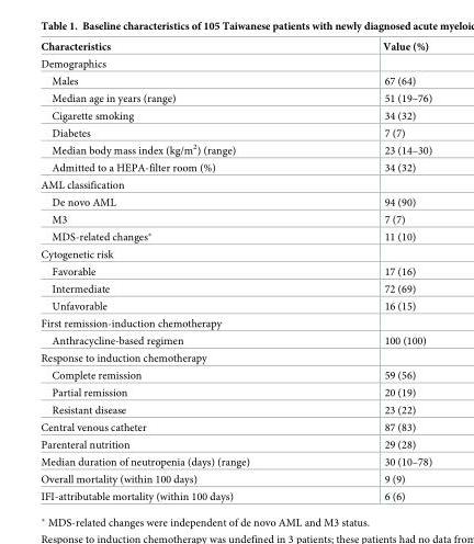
<table><thead><tr><td>Characteristics</td><td>Value (%)</td></tr></thead><tbody><tr><td colspan="2">Demographics</td></tr><tr><td>Males</td><td>67 (64)</td></tr><tr><td>Median age in years (range)</td><td>51 (19–76)</td></tr><tr><td>Cigarette smoking</td><td>34 (32)</td></tr><tr><td>Diabetes</td><td>7 (7)</td></tr><tr><td>Median body mass index (kg/m<sup>2</sup>) (range)</td><td>23 (14–30)</td></tr><tr><td>Admitted to a HEPA-filter room (%)</td><td>34 (32)</td></tr><tr><td colspan="2">AML classification</td></tr><tr><td>De novo AML</td><td>94 (90)</td></tr><tr><td>M3</td><td>7 (7)</td></tr><tr><td>MDS-related changes*</td><td>11 (10)</td></tr><tr><td colspan="2">Cytogenetic risk</td></tr><tr><td>Favorable</td><td>17 (16)</td></tr><tr><td>Intermediate</td><td>72 (69)</td></tr><tr><td>Unfavorable</td><td>16 (15)</td></tr><tr><td colspan="2">First remission-induction chemotherapy</td></tr><tr><td>Anthracycline-based regimen</td><td>100 (100)</td></tr><tr><td colspan="2">Response to induction chemotherapy</td></tr><tr><td>Complete remission</td><td>59 (56)</td></tr><tr><td>Partial remission</td><td>20 (19)</td></tr><tr><td>Resistant disease</td><td>23 (22)</td></tr><tr><td>Central venous catheter</td><td>87 (83)</td></tr><tr><td>Parenteral nutrition</td><td>29 (28)</td></tr><tr><td>Median duration of neutropenia (days) (range)</td><td>30 (10–78)</td></tr><tr><td>Overall mortality (within 100 days)</td><td>9 (9)</td></tr><tr><td>IFI-attributable mortality (within 100 days)</td><td>6 (6)</td></tr></tbody></table>